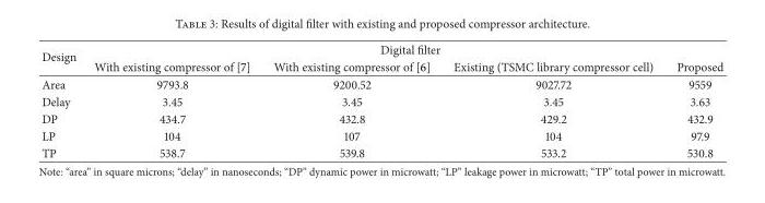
<table><thead><tr><td rowspan="2">Design</td><td colspan="4">Digital filter</td></tr><tr><td>With existing compressor of [7]</td><td>With existing compressor of [6]</td><td>Existing (TSMC library compressor cell)</td><td>Proposed</td></tr></thead><tbody><tr><td>Area</td><td>9793.8</td><td>9200.52</td><td>9027.72</td><td>9559</td></tr><tr><td>Delay</td><td>3.45</td><td>3.45</td><td>3.45</td><td>3.63</td></tr><tr><td>DP</td><td>434.7</td><td>432.8</td><td>429.2</td><td>432.9</td></tr><tr><td>LP</td><td>104</td><td>107</td><td>104</td><td>97.9</td></tr><tr><td>TP</td><td>538.7</td><td>539.8</td><td>533.2</td><td>530.8</td></tr></tbody></table>